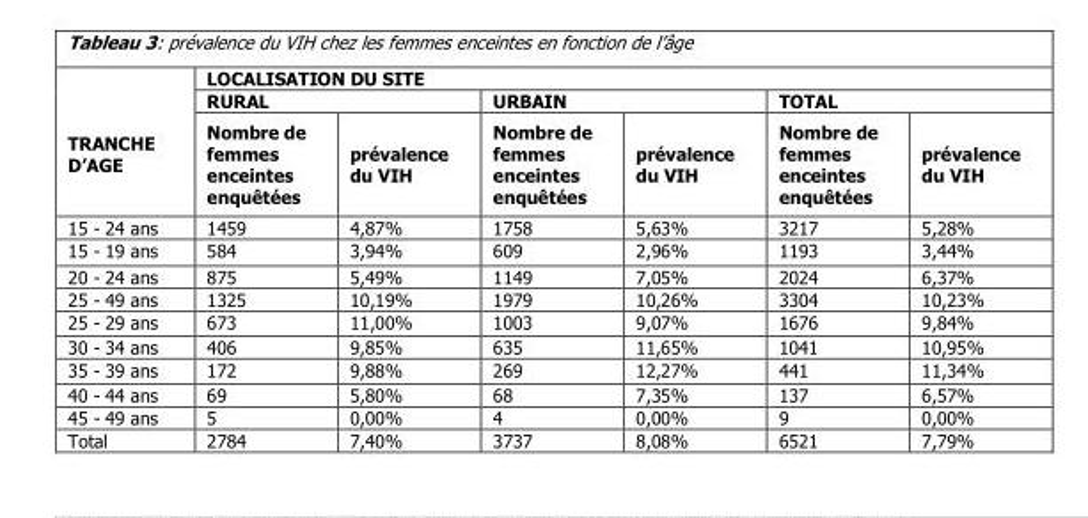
<table><thead><tr><td rowspan="3">TRANCHE D’AGE</td><td colspan="6">LOCALISATION DU SITE</td></tr><tr><td colspan="2">RURAL</td><td colspan="2">URBAIN</td><td colspan="2">TOTAL</td></tr><tr><td>Nombre de femmes enceintes enquêtées</td><td>prévalence du VIH</td><td>Nombre de femmes enceintes enquêtées</td><td>prévalence du VIH</td><td>Nombre de femmes enceintes enquêtées</td><td>prévalence du VIH</td></tr></thead><tbody><tr><td>15 - 24 ans</td><td>1459</td><td>4,87%</td><td>1758</td><td>5,63%</td><td>3217</td><td>5,28%</td></tr><tr><td>15 - 19 ans</td><td>584</td><td>3,94%</td><td>609</td><td>2,96%</td><td>1193</td><td>3,44%</td></tr><tr><td>20 - 24 ans</td><td>875</td><td>5,49%</td><td>1149</td><td>7,05%</td><td>2024</td><td>6,37%</td></tr><tr><td>25 - 49 ans</td><td>1325</td><td>10,19%</td><td>1979</td><td>10,26%</td><td>3304</td><td>10,23%</td></tr><tr><td>25 - 29 ans</td><td>673</td><td>11,00%</td><td>1003</td><td>9,07%</td><td>1676</td><td>9,84%</td></tr><tr><td>30 - 34 ans</td><td>406</td><td>9,85%</td><td>635</td><td>11,65%</td><td>1041</td><td>10,95%</td></tr><tr><td>35 - 39 ans</td><td>172</td><td>9,88%</td><td>269</td><td>12,27%</td><td>441</td><td>11,34%</td></tr><tr><td>40 - 44 ans</td><td>69</td><td>5,80%</td><td>68</td><td>7,35%</td><td>137</td><td>6,57%</td></tr><tr><td>45 - 49 ans</td><td>5</td><td>0,00%</td><td>4</td><td>0,00%</td><td>9</td><td>0,00%</td></tr><tr><td>Total</td><td>2784</td><td>7,40%</td><td>3737</td><td>8,08%</td><td>6521</td><td>7,79%</td></tr></tbody></table>